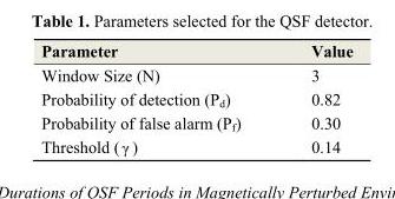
<table><thead><tr><td>Parameter</td><td>Value</td></tr></thead><tbody><tr><td>Window Size (N)</td><td>3</td></tr><tr><td>Probability of detection (P<sub>d</sub>)</td><td>0.82</td></tr><tr><td>Probability of false alarm (P<sub>f</sub>)</td><td>0.30</td></tr><tr><td>Threshold ( ) γ</td><td>0.14</td></tr></tbody></table>